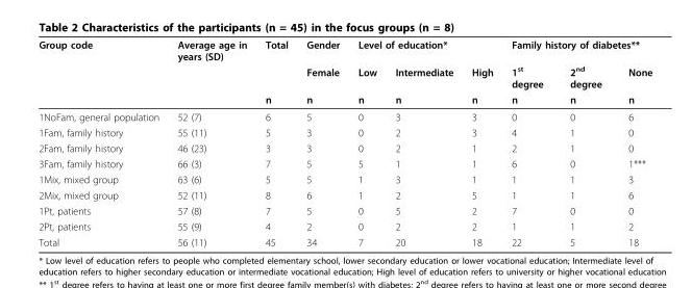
<table><thead><tr><td rowspan="3">Group code</td><td rowspan="3">Average age in years (SD)</td><td rowspan="3">Total n</td><td rowspan="3">Gender Female n</td><td colspan="3">Level of education*</td><td colspan="3">Family history of diabetes**</td></tr><tr><td rowspan="2">Low n</td><td rowspan="2">Intermediate n</td><td rowspan="2">High n</td><td rowspan="2">1<sup>st</sup> degree n</td><td rowspan="2">2<sup>nd</sup> degree n</td><td rowspan="2">None n</td></tr><tr></tr></thead><tbody><tr><td>1NoFam, general population</td><td>52 (7)</td><td>6</td><td>5</td><td>0</td><td>3</td><td>3</td><td>0</td><td>0</td><td>6</td></tr><tr><td>1Fam, family history</td><td>55 (11)</td><td>5</td><td>3</td><td>0</td><td>2</td><td>3</td><td>4</td><td>1</td><td>0</td></tr><tr><td>2Fam, family history</td><td>46 (23)</td><td>3</td><td>3</td><td>0</td><td>2</td><td>1</td><td>2</td><td>1</td><td>0</td></tr><tr><td>3Fam, family history</td><td>66 (3)</td><td>7</td><td>5</td><td>5</td><td>1</td><td>1</td><td>6</td><td>0</td><td>1***</td></tr><tr><td>1Mix, mixed group</td><td>63 (6)</td><td>5</td><td>5</td><td>1</td><td>3</td><td>1</td><td>1</td><td>1</td><td>3</td></tr><tr><td>2Mix, mixed group</td><td>52 (11)</td><td>8</td><td>6</td><td>1</td><td>2</td><td>5</td><td>1</td><td>1</td><td>6</td></tr><tr><td>1Pt, patients</td><td>57 (8)</td><td>7</td><td>5</td><td>0</td><td>5</td><td>2</td><td>7</td><td>0</td><td>0</td></tr><tr><td>2Pt, patients</td><td>55 (9)</td><td>4</td><td>2</td><td>0</td><td>2</td><td>2</td><td>1</td><td>1</td><td>2</td></tr><tr><td>Total</td><td>56 (11)</td><td>45</td><td>34</td><td>7</td><td>20</td><td>18</td><td>22</td><td>5</td><td>18</td></tr></tbody></table>